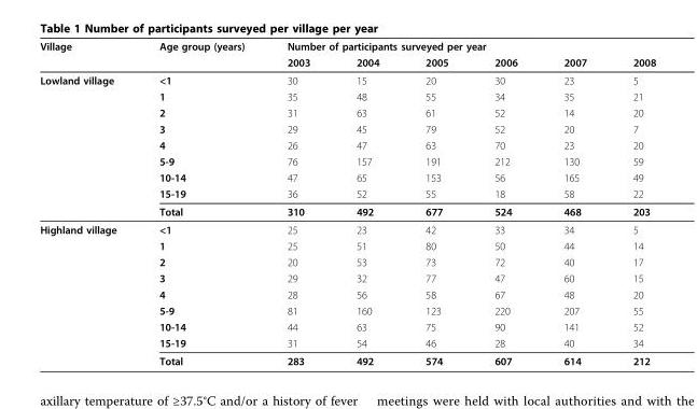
<table><thead><tr><td rowspan="2">Village</td><td rowspan="2">Age group (years)</td><td colspan="6">Number of participants surveyed per year</td></tr><tr><td>2003</td><td>2004</td><td>2005</td><td>2006</td><td>2007</td><td>2008</td></tr></thead><tbody><tr><td rowspan="9">Lowland village</td><td>&lt;1</td><td>30</td><td>15</td><td>20</td><td>30</td><td>23</td><td>5</td></tr><tr><td>1</td><td>35</td><td>48</td><td>55</td><td>34</td><td>35</td><td>21</td></tr><tr><td>2</td><td>31</td><td>63</td><td>61</td><td>52</td><td>14</td><td>20</td></tr><tr><td>3</td><td>29</td><td>45</td><td>79</td><td>52</td><td>20</td><td>7</td></tr><tr><td>4</td><td>26</td><td>47</td><td>63</td><td>70</td><td>23</td><td>20</td></tr><tr><td>5-9</td><td>76</td><td>157</td><td>191</td><td>212</td><td>130</td><td>59</td></tr><tr><td>10-14</td><td>47</td><td>65</td><td>153</td><td>56</td><td>165</td><td>49</td></tr><tr><td>15-19</td><td>36</td><td>52</td><td>55</td><td>18</td><td>58</td><td>22</td></tr><tr><td>Total</td><td>310</td><td>492</td><td>677</td><td>524</td><td>468</td><td>203</td></tr><tr><td rowspan="9">Highland village</td><td>&lt;1</td><td>25</td><td>23</td><td>42</td><td>33</td><td>34</td><td>5</td></tr><tr><td>1</td><td>25</td><td>51</td><td>80</td><td>50</td><td>44</td><td>14</td></tr><tr><td>2</td><td>20</td><td>53</td><td>73</td><td>72</td><td>40</td><td>17</td></tr><tr><td>3</td><td>29</td><td>32</td><td>77</td><td>47</td><td>60</td><td>15</td></tr><tr><td>4</td><td>28</td><td>56</td><td>58</td><td>67</td><td>48</td><td>20</td></tr><tr><td>5-9</td><td>81</td><td>160</td><td>123</td><td>220</td><td>207</td><td>55</td></tr><tr><td>10-14</td><td>44</td><td>63</td><td>75</td><td>90</td><td>141</td><td>52</td></tr><tr><td>15-19</td><td>31</td><td>54</td><td>46</td><td>28</td><td>40</td><td>34</td></tr><tr><td>Total</td><td>283</td><td>492</td><td>574</td><td>607</td><td>614</td><td>212</td></tr></tbody></table>